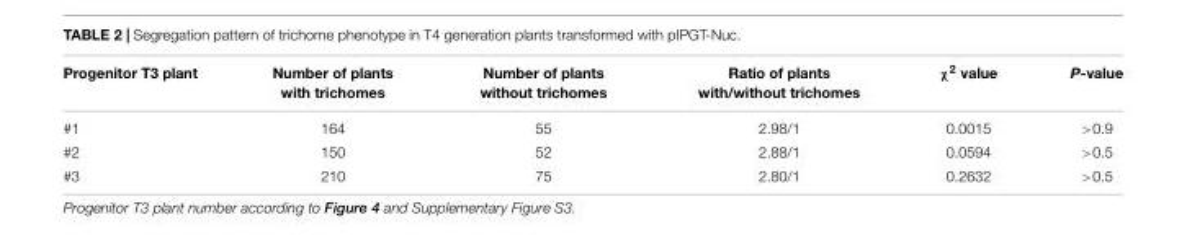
<table><thead><tr><td>Progenitor T3 plant</td><td>Number of plants with trichomes</td><td>Number of plants without trichomes</td><td>Ratio of plants with/without trichomes</td><td>χ<sup>2</sup> value</td><td>P-value</td></tr></thead><tbody><tr><td>#1</td><td>164</td><td>55</td><td>2.98/1</td><td>0.0015</td><td>&gt;0.9</td></tr><tr><td>#2</td><td>150</td><td>52</td><td>2.88/1</td><td>0.0594</td><td>&gt;0.5</td></tr><tr><td>#3</td><td>210</td><td>75</td><td>2.80/1</td><td>0.2632</td><td>&gt;0.5</td></tr></tbody></table>